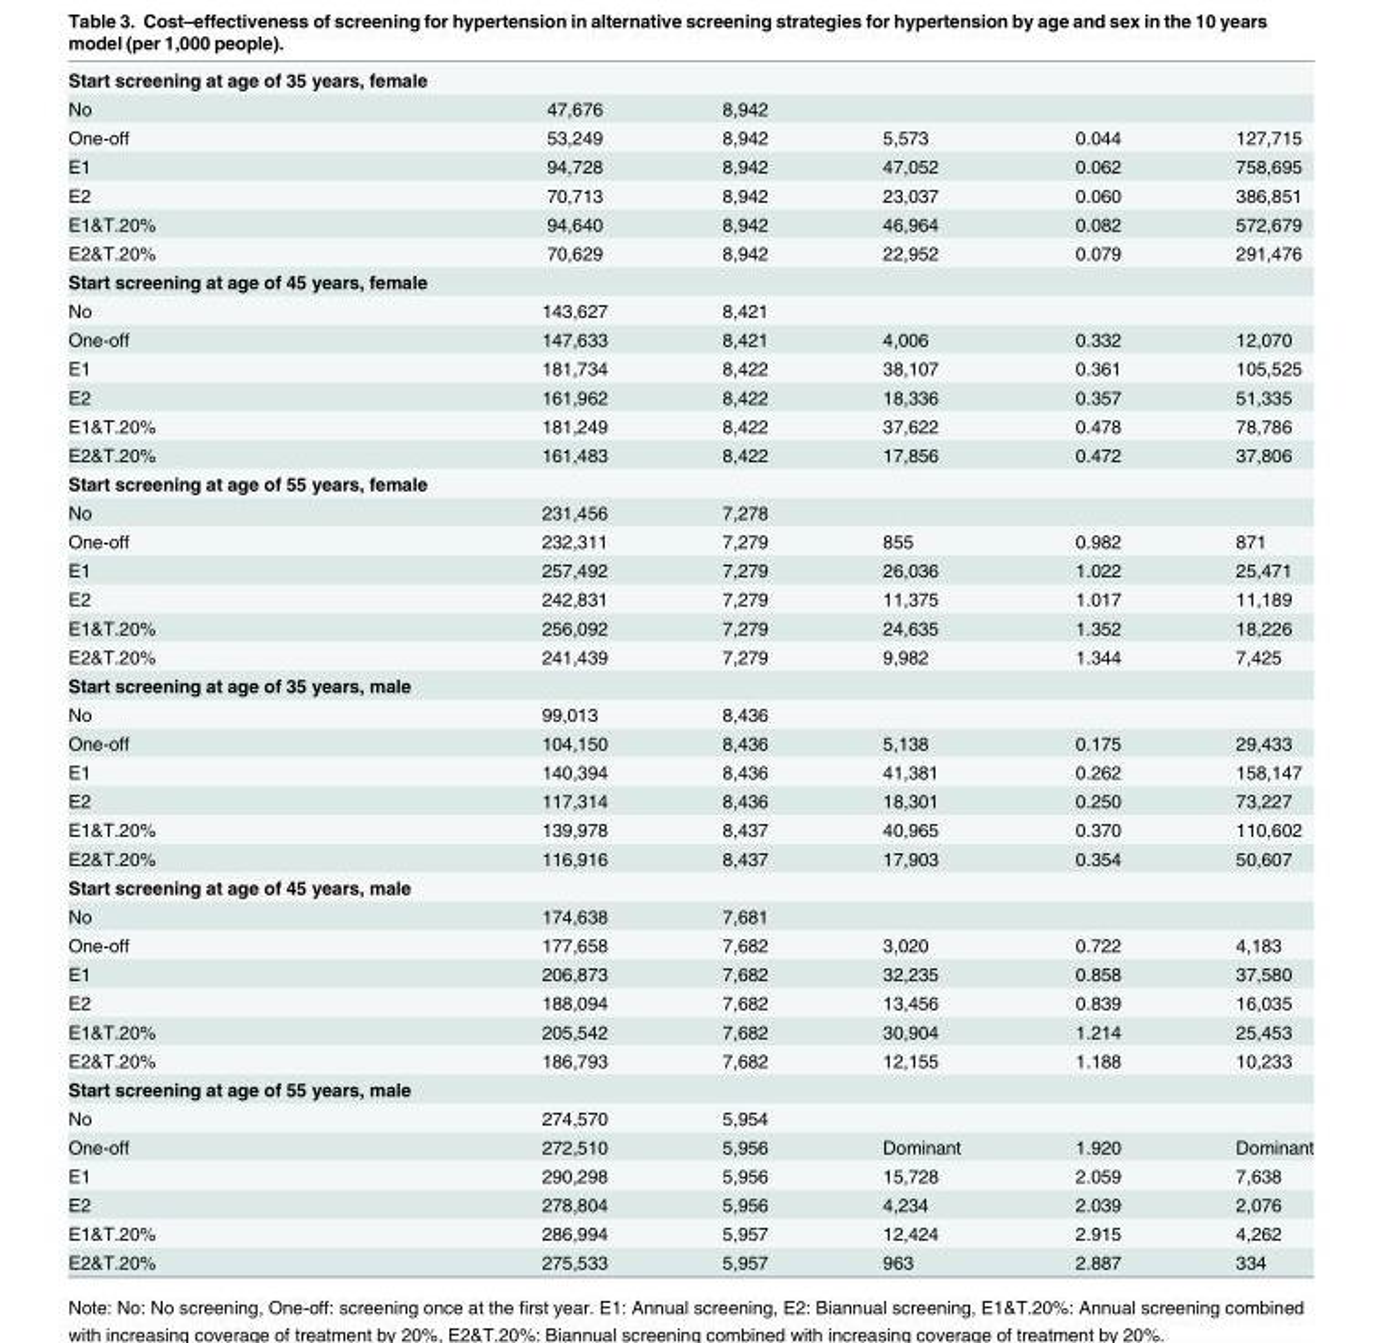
<table><tbody><tr><td colspan="6">Start screening at age of 35 years, female</td></tr><tr><td>No</td><td>47,676</td><td>8,942</td><td></td><td></td><td></td></tr><tr><td>One-off</td><td>53,249</td><td>8,942</td><td>5,573</td><td>0.044</td><td>127,715</td></tr><tr><td>E1</td><td>94,728</td><td>8,942</td><td>47,052</td><td>0.062</td><td>758,695</td></tr><tr><td>E2</td><td>70,713</td><td>8,942</td><td>23,037</td><td>0.060</td><td>386,851</td></tr><tr><td>E1&amp;T.20%</td><td>94,640</td><td>8,942</td><td>46,964</td><td>0.082</td><td>572,679</td></tr><tr><td>E2&amp;T.20%</td><td>70,629</td><td>8,942</td><td>22,952</td><td>0.079</td><td>291,476</td></tr><tr><td colspan="6">Start screening at age of 45 years, female</td></tr><tr><td>No</td><td>143,627</td><td>8,421</td><td></td><td></td><td></td></tr><tr><td>One-off</td><td>147,633</td><td>8,421</td><td>4,006</td><td>0.332</td><td>12,070</td></tr><tr><td>E1</td><td>181,734</td><td>8,422</td><td>38,107</td><td>0.361</td><td>105,525</td></tr><tr><td>E2</td><td>161,962</td><td>8,422</td><td>18,336</td><td>0.357</td><td>51,335</td></tr><tr><td>E1&amp;T.20%</td><td>181,249</td><td>8,422</td><td>37,622</td><td>0.478</td><td>78,786</td></tr><tr><td>E2&amp;T.20%</td><td>161,483</td><td>8,422</td><td>17,856</td><td>0.472</td><td>37,806</td></tr><tr><td colspan="6">Start screening at age of 55 years, female</td></tr><tr><td>No</td><td>231,456</td><td>7,278</td><td></td><td></td><td></td></tr><tr><td>One-off</td><td>232,311</td><td>7,279</td><td>855</td><td>0.982</td><td>871</td></tr><tr><td>E1</td><td>257,492</td><td>7,279</td><td>26,036</td><td>1.022</td><td>25,471</td></tr><tr><td>E2</td><td>242,831</td><td>7,279</td><td>11,375</td><td>1.017</td><td>11,189</td></tr><tr><td>E1&amp;T.20%</td><td>256,092</td><td>7,279</td><td>24,635</td><td>1.352</td><td>18,226</td></tr><tr><td>E2&amp;T.20%</td><td>241,439</td><td>7,279</td><td>9,982</td><td>1.344</td><td>7,425</td></tr><tr><td colspan="6">Start screening at age of 35 years, male</td></tr><tr><td>No</td><td>99,013</td><td>8,436</td><td></td><td></td><td></td></tr><tr><td>One-off</td><td>104,150</td><td>8,436</td><td>5,138</td><td>0.175</td><td>29,433</td></tr><tr><td>E1</td><td>140,394</td><td>8,436</td><td>41,381</td><td>0.262</td><td>158,147</td></tr><tr><td>E2</td><td>117,314</td><td>8,436</td><td>18,301</td><td>0.250</td><td>73,227</td></tr><tr><td>E1&amp;T.20%</td><td>139,978</td><td>8,437</td><td>40,965</td><td>0.370</td><td>110,602</td></tr><tr><td>E2&amp;T.20%</td><td>116,916</td><td>8,437</td><td>17,903</td><td>0.354</td><td>50,607</td></tr><tr><td colspan="6">Start screening at age of 45 years, male</td></tr><tr><td>No</td><td>174,638</td><td>7,681</td><td></td><td></td><td></td></tr><tr><td>One-off</td><td>177,658</td><td>7,682</td><td>3,020</td><td>0.722</td><td>4,183</td></tr><tr><td>E1</td><td>206,873</td><td>7,682</td><td>32,235</td><td>0.858</td><td>37,580</td></tr><tr><td>E2</td><td>188,094</td><td>7,682</td><td>13,456</td><td>0.839</td><td>16,035</td></tr><tr><td>E1&amp;T.20%</td><td>205,542</td><td>7,682</td><td>30,904</td><td>1.214</td><td>25,453</td></tr><tr><td>E2&amp;T.20%</td><td>186,793</td><td>7,682</td><td>12,155</td><td>1.188</td><td>10,233</td></tr><tr><td colspan="6">Start screening at age of 55 years, male</td></tr><tr><td>No</td><td>274,570</td><td>5,954</td><td></td><td></td><td></td></tr><tr><td>One-off</td><td>272,510</td><td>5,956</td><td>Dominant</td><td>1.920</td><td>Dominant</td></tr><tr><td>E1</td><td>290,298</td><td>5,956</td><td>15,728</td><td>2.059</td><td>7,638</td></tr><tr><td>E2</td><td>278,804</td><td>5,956</td><td>4,234</td><td>2.039</td><td>2,076</td></tr><tr><td>E1&amp;T.20%</td><td>286,994</td><td>5,957</td><td>12,424</td><td>2.915</td><td>4,262</td></tr><tr><td>E2&amp;T.20%</td><td>275,533</td><td>5,957</td><td>963</td><td>2.887</td><td>334</td></tr></tbody></table>